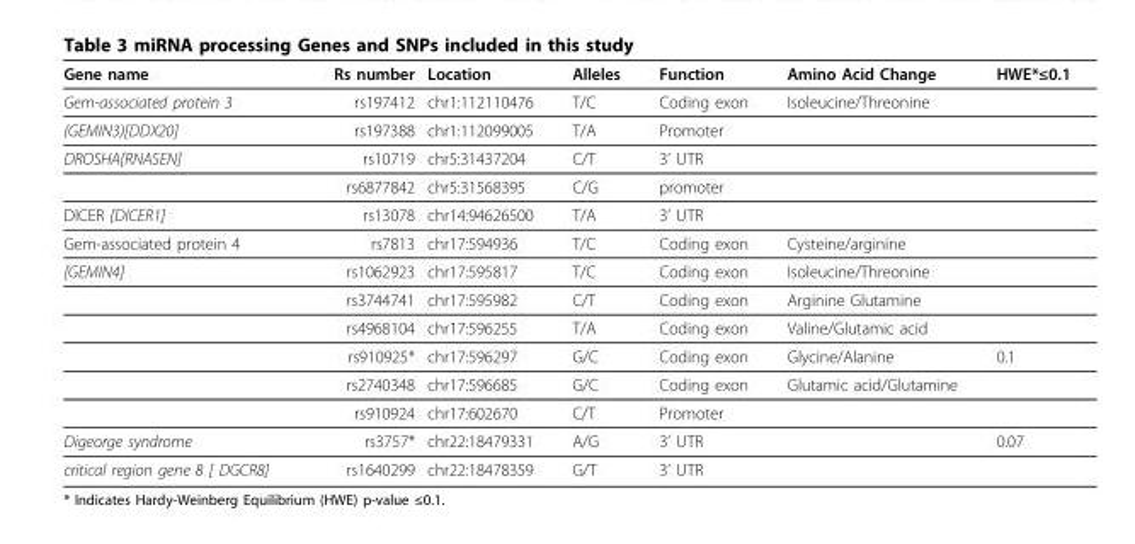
<table><thead><tr><td>Gene name</td><td>Rs number</td><td>Location</td><td>Alleles</td><td>Function</td><td>Amino Acid Change</td><td>HWE*≤0.1</td></tr></thead><tbody><tr><td>Gem-associated protein 3</td><td>rs197412</td><td>chr1:112110476</td><td>T/C</td><td>Coding exon</td><td>Isoleucine/Threonine</td><td></td></tr><tr><td>(GEMIN3)[DDX20]</td><td>rs197388</td><td>chr1:112099005</td><td>T/A</td><td>Promoter</td><td></td><td></td></tr><tr><td rowspan="2">DROSHA[RNASEN]</td><td>rs10719</td><td>chr5:31437204</td><td>C/T</td><td>3’ UTR</td><td></td><td></td></tr><tr><td>rs6877842</td><td>chr5:31568395</td><td>C/G</td><td>promoter</td><td></td><td></td></tr><tr><td>DICER [DICER1]</td><td>rs13078</td><td>chr14:94626500</td><td>T/A</td><td>3’ UTR</td><td></td><td></td></tr><tr><td>Gem-associated protein 4</td><td>rs7813</td><td>chr17:594936</td><td>T/C</td><td>Coding exon</td><td>Cysteine/arginine</td><td></td></tr><tr><td rowspan="6">[GEMIN4]</td><td>rs1062923</td><td>chr17:595817</td><td>T/C</td><td>Coding exon</td><td>Isoleucine/Threonine</td><td></td></tr><tr><td>rs3744741</td><td>chr17:595982</td><td>C/T</td><td>Coding exon</td><td>Arginine Glutamine</td><td></td></tr><tr><td>rs4968104</td><td>chr17:596255</td><td>T/A</td><td>Coding exon</td><td>Valine/Glutamic acid</td><td></td></tr><tr><td>rs910925*</td><td>chr17:596297</td><td>G/C</td><td>Coding exon</td><td>Glycine/Alanine</td><td>0.1</td></tr><tr><td>rs2740348</td><td>chr17:596685</td><td>G/C</td><td>Coding exon</td><td>Glutamic acid/Glutamine</td><td></td></tr><tr><td>rs910924</td><td>chr17:602670</td><td>C/T</td><td>Promoter</td><td></td><td></td></tr><tr><td>Digeorge syndrome</td><td>rs3757*</td><td>chr22:18479331</td><td>A/G</td><td colspan="2">3’ UTR</td><td>0.07</td></tr><tr><td>critical region gene 8 [ DGCR8]</td><td>rs1640299</td><td>chr22:18478359</td><td>G/T</td><td colspan="2">3’ UTR</td><td></td></tr></tbody></table>